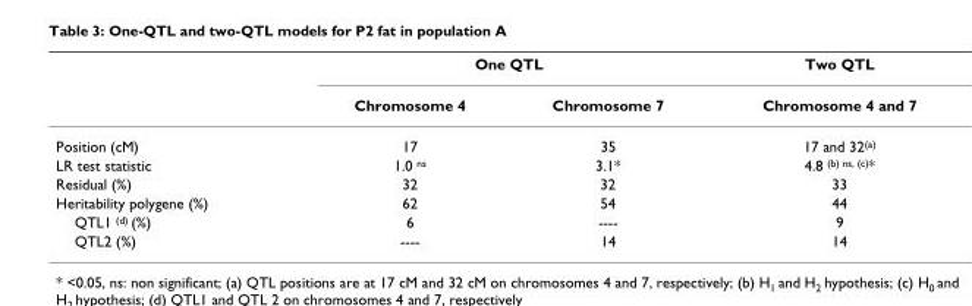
<table><thead><tr><td rowspan="2"></td><td colspan="2">One QTL</td><td rowspan="2">Two QTL Chromosome 4 and 7</td></tr><tr><td>Chromosome 4</td><td>Chromosome 7</td></tr></thead><tbody><tr><td>Position (cM)</td><td>17</td><td>35</td><td>17 and 32<sup>(a)</sup></td></tr><tr><td>LR test statistic</td><td>1.0 <sup>ns</sup></td><td>3.1*</td><td>4.8 <sup>(b) ns, (c)</sup>*</td></tr><tr><td>Residual (%)</td><td>32</td><td>32</td><td>33</td></tr><tr><td>Heritability polygene (%)</td><td>62</td><td>54</td><td>44</td></tr><tr><td>QTL1 <sup>(d)</sup> (%)</td><td>6</td><td>----</td><td>9</td></tr><tr><td>QTL2 (%)</td><td>----</td><td>14</td><td>14</td></tr></tbody></table>